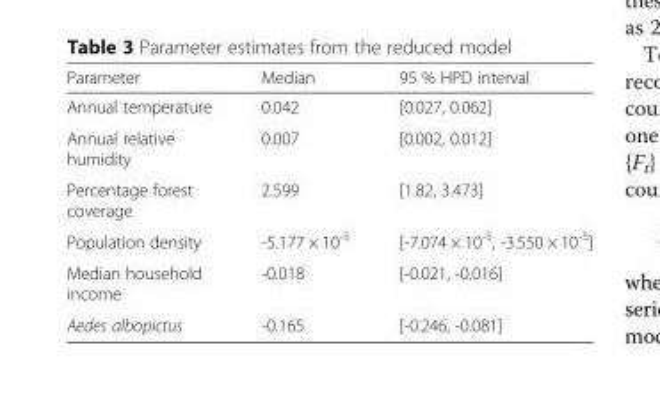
<table><thead><tr><td>Parameter</td><td>Median</td><td>95 % HPD interval</td></tr></thead><tbody><tr><td>Annual temperature</td><td>0.042</td><td>[0.027, 0.062]</td></tr><tr><td>Annual relative humidity</td><td>0.007</td><td>[0.002, 0.012]</td></tr><tr><td>Percentage forest coverage</td><td>2.599</td><td>[1.82, 3.473]</td></tr><tr><td>Population density</td><td>-5.177 × 10<sup>-5</sup></td><td>[-7.074 × 10<sup>-5</sup>, -3.550 × 10<sup>-5</sup>]</td></tr><tr><td>Median household income</td><td>-0.018</td><td>[-0.021, -0.016]</td></tr><tr><td>Aedes albopictus</td><td>-0.165</td><td>[-0.246, -0.081]</td></tr></tbody></table>